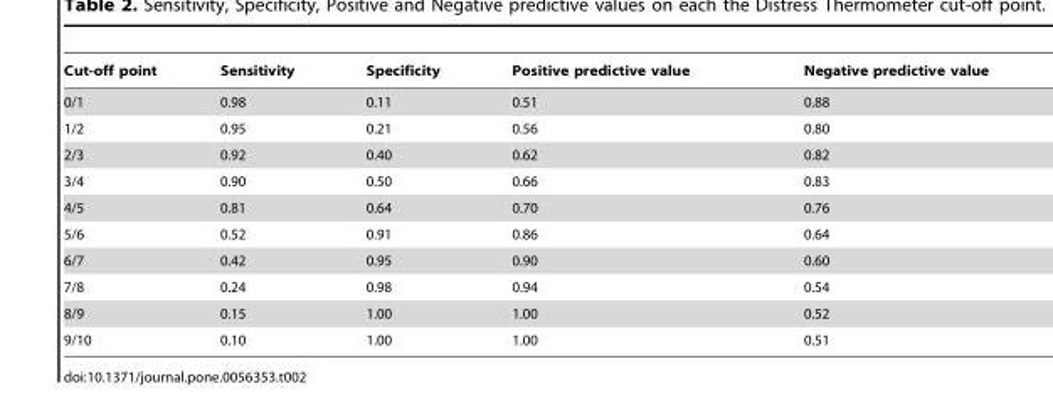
<table><thead><tr><td>Cut-off point</td><td>Sensitivity</td><td>Specificity</td><td>Positive predictive value</td><td>Negative predictive value</td></tr></thead><tbody><tr><td>0/1</td><td>0.98</td><td>0.11</td><td>0.51</td><td>0.88</td></tr><tr><td>1/2</td><td>0.95</td><td>0.21</td><td>0.56</td><td>0.80</td></tr><tr><td>2/3</td><td>0.92</td><td>0.40</td><td>0.62</td><td>0.82</td></tr><tr><td>3/4</td><td>0.90</td><td>0.50</td><td>0.66</td><td>0.83</td></tr><tr><td>4/5</td><td>0.81</td><td>0.64</td><td>0.70</td><td>0.76</td></tr><tr><td>5/6</td><td>0.52</td><td>0.91</td><td>0.86</td><td>0.64</td></tr><tr><td>6/7</td><td>0.42</td><td>0.95</td><td>0.90</td><td>0.60</td></tr><tr><td>7/8</td><td>0.24</td><td>0.98</td><td>0.94</td><td>0.54</td></tr><tr><td>8/9</td><td>0.15</td><td>1.00</td><td>1.00</td><td>0.52</td></tr><tr><td>9/10</td><td>0.10</td><td>1.00</td><td>1.00</td><td>0.51</td></tr></tbody></table>